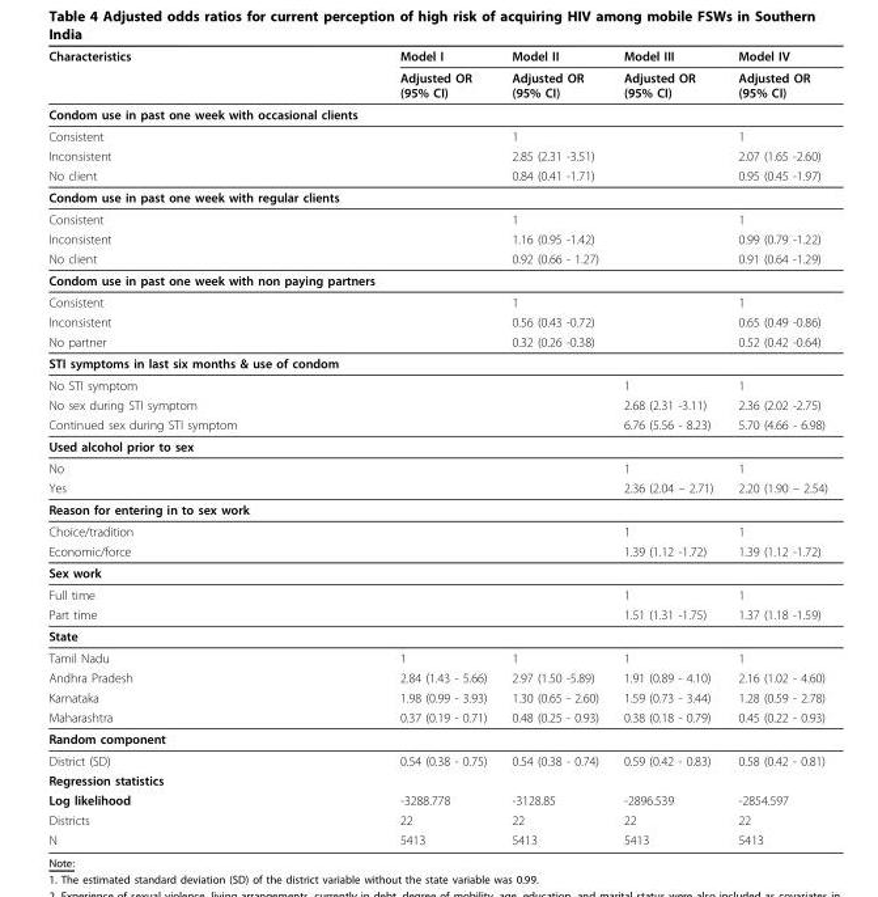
<table><thead><tr><td rowspan="2">Characteristics</td><td rowspan="2">Model I Adjusted OR (95% CI)</td><td rowspan="2">Model II Adjusted OR (95% CI)</td><td rowspan="2">Model III Adjusted OR (95% CI)</td><td rowspan="2">Model IV Adjusted OR (95% CI)</td></tr><tr></tr></thead><tbody><tr><td colspan="5">Condom use in past one week with occasional clients</td></tr><tr><td>Consistent</td><td></td><td>1</td><td></td><td>1</td></tr><tr><td>Inconsistent</td><td></td><td>2.85 (2.31 -3.51)</td><td></td><td>2.07 (1.65 -2.60)</td></tr><tr><td>No client</td><td></td><td>0.84 (0.41 -1.71)</td><td></td><td>0.95 (0.45 -1.97)</td></tr><tr><td colspan="5">Condom use in past one week with regular clients</td></tr><tr><td>Consistent</td><td></td><td>1</td><td></td><td>1</td></tr><tr><td>Inconsistent</td><td></td><td>1.16 (0.95 -1.42)</td><td></td><td>0.99 (0.79 -1.22)</td></tr><tr><td>No client</td><td></td><td>0.92 (0.66 - 1.27)</td><td></td><td>0.91 (0.64 -1.29)</td></tr><tr><td colspan="5">Condom use in past one week with non paying partners</td></tr><tr><td>Consistent</td><td></td><td>1</td><td></td><td>1</td></tr><tr><td>Inconsistent</td><td></td><td>0.56 (0.43 -0.72)</td><td></td><td>0.65 (0.49 -0.86)</td></tr><tr><td>No partner</td><td></td><td>0.32 (0.26 -0.38)</td><td></td><td>0.52 (0.42 -0.64)</td></tr><tr><td colspan="5">STI symptoms in last six months &amp; use of condom</td></tr><tr><td>No STI symptom</td><td></td><td></td><td>1</td><td>1</td></tr><tr><td>No sex during STI symptom</td><td></td><td></td><td>2.68 (2.31 -3.11)</td><td>2.36 (2.02 -2.75)</td></tr><tr><td>Continued sex during STI symptom</td><td></td><td></td><td>6.76 (5.56 - 8.23)</td><td>5.70 (4.66 - 6.98)</td></tr><tr><td colspan="5">Used alcohol prior to sex</td></tr><tr><td>No</td><td></td><td></td><td>1</td><td>1</td></tr><tr><td>Yes</td><td></td><td></td><td>2.36 (2.04 – 2.71)</td><td>2.20 (1.90 – 2.54)</td></tr><tr><td colspan="5">Reason for entering in to sex work</td></tr><tr><td>Choice/tradition</td><td></td><td></td><td>1</td><td>1</td></tr><tr><td>Economic/force</td><td></td><td></td><td>1.39 (1.12 -1.72)</td><td>1.39 (1.12 -1.72)</td></tr><tr><td colspan="5">Sex work</td></tr><tr><td>Full time</td><td></td><td></td><td>1</td><td>1</td></tr><tr><td>Part time</td><td></td><td></td><td>1.51 (1.31 -1.75)</td><td>1.37 (1.18 -1.59)</td></tr><tr><td colspan="5">State</td></tr><tr><td>Tamil Nadu</td><td>1</td><td>1</td><td>1</td><td>1</td></tr><tr><td>Andhra Pradesh</td><td>2.84 (1.43 - 5.66)</td><td>2.97 (1.50 -5.89)</td><td>1.91 (0.89 - 4.10)</td><td>2.16 (1.02 - 4.60)</td></tr><tr><td>Karnataka</td><td>1.98 (0.99 - 3.93)</td><td>1.30 (0.65 - 2.60)</td><td>1.59 (0.73 - 3.44)</td><td>1.28 (0.59 - 2.78)</td></tr><tr><td>Maharashtra</td><td>0.37 (0.19 - 0.71)</td><td>0.48 (0.25 - 0.93)</td><td>0.38 (0.18 - 0.79)</td><td>0.45 (0.22 - 0.93)</td></tr><tr><td colspan="5">Random component</td></tr><tr><td>District (SD)</td><td>0.54 (0.38 - 0.75)</td><td>0.54 (0.38 - 0.74)</td><td>0.59 (0.42 - 0.83)</td><td>0.58 (0.42 - 0.81)</td></tr><tr><td colspan="5">Regression statistics</td></tr><tr><td>Log likelihood</td><td>-3288.778</td><td>-3128.85</td><td>-2896.539</td><td>-2854.597</td></tr><tr><td>Districts</td><td>22</td><td>22</td><td>22</td><td>22</td></tr><tr><td>N</td><td>5413</td><td>5413</td><td>5413</td><td>5413</td></tr></tbody></table>